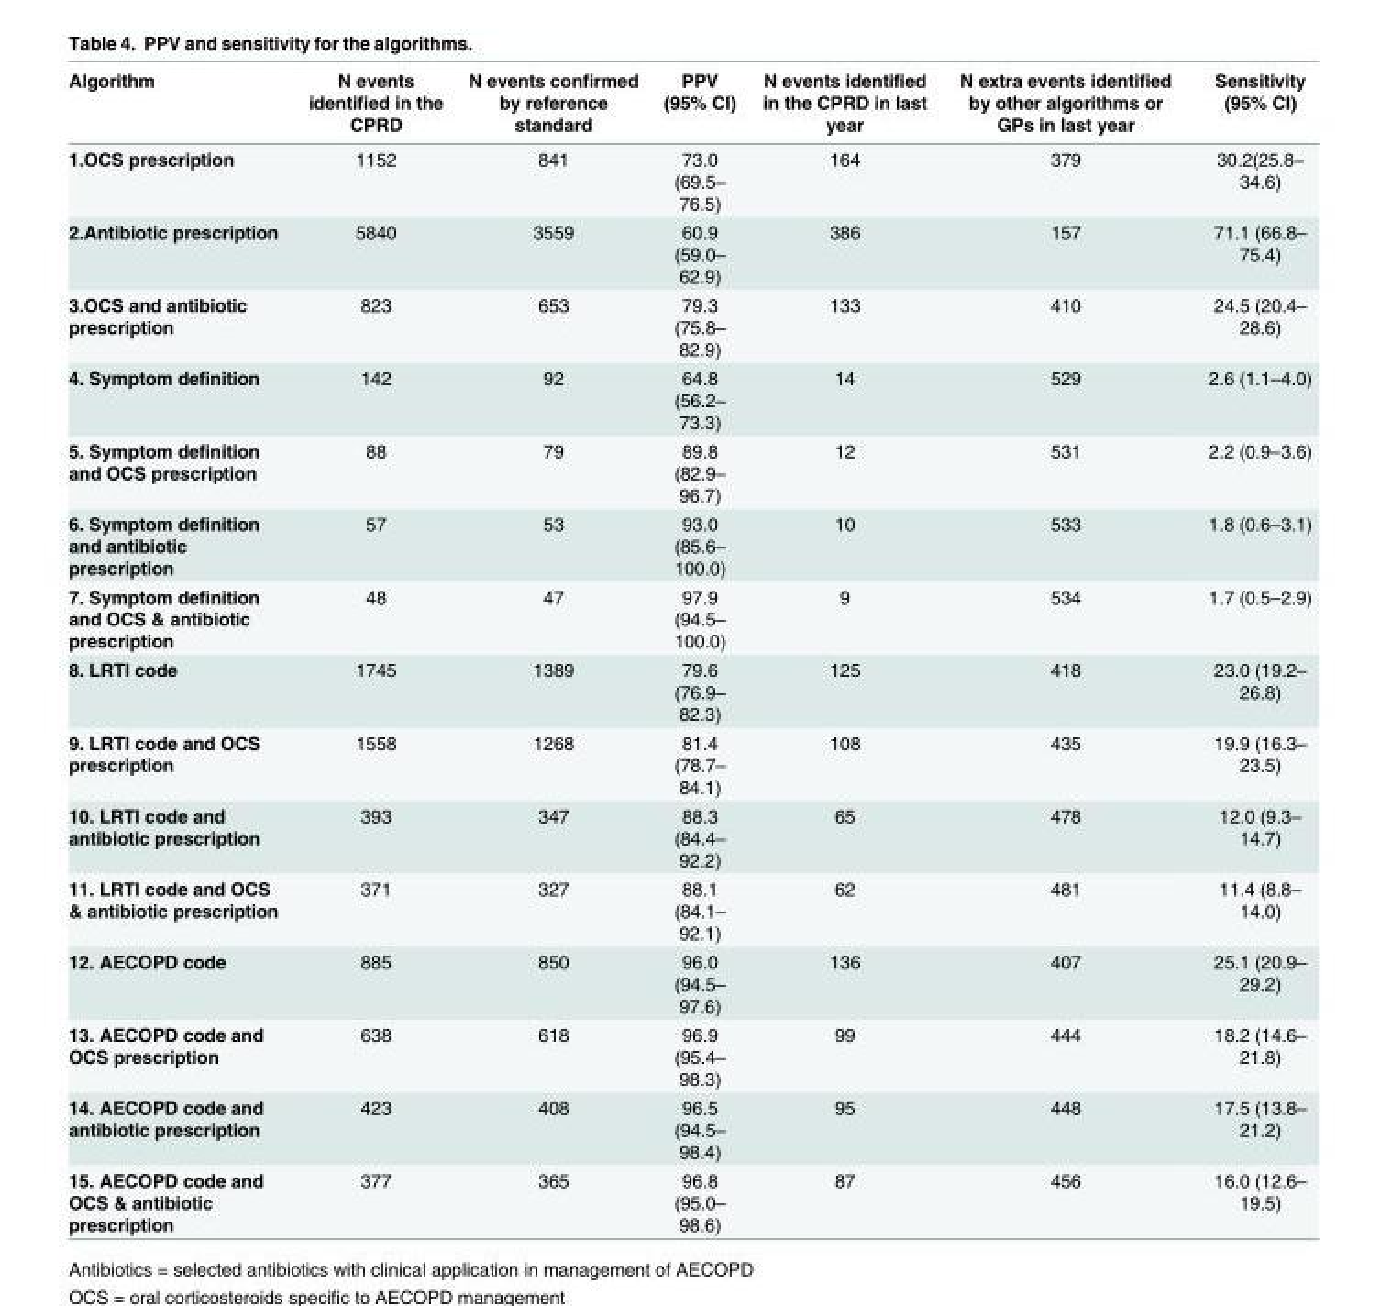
<table><thead><tr><td>Algorithm</td><td>N events identified in the CPRD</td><td>N events confirmed by reference standard</td><td>PPV (95% CI)</td><td>N events identified in the CPRD in last year</td><td>N extra events identified by other algorithms or GPs in last year</td><td>Sensitivity (95% CI)</td></tr></thead><tbody><tr><td>1.OCS prescription</td><td>1152</td><td>841</td><td>73.0 (69.5– 76.5)</td><td>164</td><td>379</td><td>30.2(25.8– 34.6)</td></tr><tr><td>2.Antibiotic prescription</td><td>5840</td><td>3559</td><td>60.9 (59.0– 62.9)</td><td>386</td><td>157</td><td>71.1 (66.8– 75.4)</td></tr><tr><td>3.OCS and antibiotic prescription</td><td>823</td><td>653</td><td>79.3 (75.8– 82.9)</td><td>133</td><td>410</td><td>24.5 (20.4– 28.6)</td></tr><tr><td>4. Symptom definition</td><td>142</td><td>92</td><td>64.8 (56.2– 73.3)</td><td>14</td><td>529</td><td>2.6 (1.1–4.0)</td></tr><tr><td>5. Symptom definition and OCS prescription</td><td>88</td><td>79</td><td>89.8 (82.9– 96.7)</td><td>12</td><td>531</td><td>2.2 (0.9–3.6)</td></tr><tr><td>6. Symptom definition and antibiotic prescription</td><td>57</td><td>53</td><td>93.0 (85.6– 100.0)</td><td>10</td><td>533</td><td>1.8 (0.6–3.1)</td></tr><tr><td>7. Symptom definition and OCS &amp; antibiotic prescription</td><td>48</td><td>47</td><td>97.9 (94.5– 100.0)</td><td>9</td><td>534</td><td>1.7 (0.5–2.9)</td></tr><tr><td>8. LRTI code</td><td>1745</td><td>1389</td><td>79.6 (76.9– 82.3)</td><td>125</td><td>418</td><td>23.0 (19.2– 26.8)</td></tr><tr><td>9. LRTI code and OCS prescription</td><td>1558</td><td>1268</td><td>81.4 (78.7– 84.1)</td><td>108</td><td>435</td><td>19.9 (16.3– 23.5)</td></tr><tr><td>10. LRTI code and antibiotic prescription</td><td>393</td><td>347</td><td>88.3 (84.4– 92.2)</td><td>65</td><td>478</td><td>12.0 (9.3– 14.7)</td></tr><tr><td>11. LRTI code and OCS &amp; antibiotic prescription</td><td>371</td><td>327</td><td>88.1 (84.1– 92.1)</td><td>62</td><td>481</td><td>11.4 (8.8– 14.0)</td></tr><tr><td>12. AECOPD code</td><td>885</td><td>850</td><td>96.0 (94.5– 97.6)</td><td>136</td><td>407</td><td>25.1 (20.9– 29.2)</td></tr><tr><td>13. AECOPD code and OCS prescription</td><td>638</td><td>618</td><td>96.9 (95.4– 98.3)</td><td>99</td><td>444</td><td>18.2 (14.6– 21.8)</td></tr><tr><td>14. AECOPD code and antibiotic prescription</td><td>423</td><td>408</td><td>96.5 (94.5– 98.4)</td><td>95</td><td>448</td><td>17.5 (13.8– 21.2)</td></tr><tr><td>15. AECOPD code and OCS &amp; antibiotic prescription</td><td>377</td><td>365</td><td>96.8 (95.0– 98.6)</td><td>87</td><td>456</td><td>16.0 (12.6– 19.5)</td></tr></tbody></table>